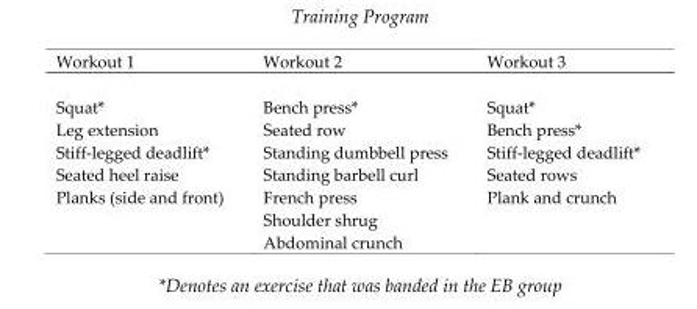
<table><thead><tr><td>Workout 1</td><td>Workout 2</td><td>Workout 3</td></tr></thead><tbody><tr><td>Squat*</td><td>Bench press*</td><td>Squat*</td></tr><tr><td>Leg extension</td><td>Seated row</td><td>Bench press*</td></tr><tr><td>Stiff-legged deadlift*</td><td>Standing dumbbell press</td><td>Stiff-legged deadlift*</td></tr><tr><td>Seated heel raise</td><td>Standing barbell curl</td><td>Seated rows</td></tr><tr><td rowspan="3">Planks (side and front)</td><td>French press</td><td>Plank and crunch</td></tr><tr><td>Shoulder shrug</td><td></td></tr><tr><td>Abdominal crunch</td><td></td></tr></tbody></table>